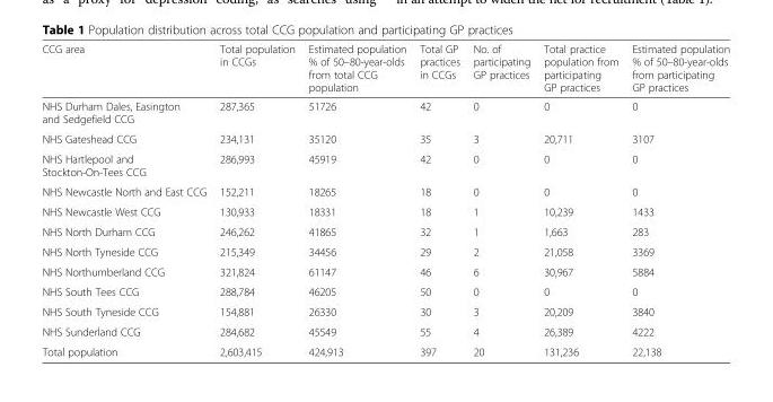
<table><thead><tr><td>CCG area</td><td>Total population in CCGs</td><td>Estimated population % of 50–80-year-olds from total CCG population</td><td>Total GP practices in CCGs</td><td>No. of participating GP practices</td><td>Total practice population from participating GP practices</td><td>Estimated population % of 50–80-year-olds from participating GP practices</td></tr></thead><tbody><tr><td>NHS Durham Dales, Easington and Sedgefield CCG</td><td>287,365</td><td>51726</td><td>42</td><td>0</td><td>0</td><td>0</td></tr><tr><td>NHS Gateshead CCG</td><td>234,131</td><td>35120</td><td>35</td><td>3</td><td>20,711</td><td>3107</td></tr><tr><td>NHS Hartlepool and Stockton-On-Tees CCG</td><td>286,993</td><td>45919</td><td>42</td><td>0</td><td>0</td><td>0</td></tr><tr><td>NHS Newcastle North and East CCG</td><td>152,211</td><td>18265</td><td>18</td><td>0</td><td>0</td><td>0</td></tr><tr><td>NHS Newcastle West CCG</td><td>130,933</td><td>18331</td><td>18</td><td>1</td><td>10,239</td><td>1433</td></tr><tr><td>NHS North Durham CCG</td><td>246,262</td><td>41865</td><td>32</td><td>1</td><td>1,663</td><td>283</td></tr><tr><td>NHS North Tyneside CCG</td><td>215,349</td><td>34456</td><td>29</td><td>2</td><td>21,058</td><td>3369</td></tr><tr><td>NHS Northumberland CCG</td><td>321,824</td><td>61147</td><td>46</td><td>6</td><td>30,967</td><td>5884</td></tr><tr><td>NHS South Tees CCG</td><td>288,784</td><td>46205</td><td>50</td><td>0</td><td>0</td><td>0</td></tr><tr><td>NHS South Tyneside CCG</td><td>154,881</td><td>26330</td><td>30</td><td>3</td><td>20,209</td><td>3840</td></tr><tr><td>NHS Sunderland CCG</td><td>284,682</td><td>45549</td><td>55</td><td>4</td><td>26,389</td><td>4222</td></tr><tr><td>Total population</td><td>2,603,415</td><td>424,913</td><td>397</td><td>20</td><td>131,236</td><td>22,138</td></tr></tbody></table>